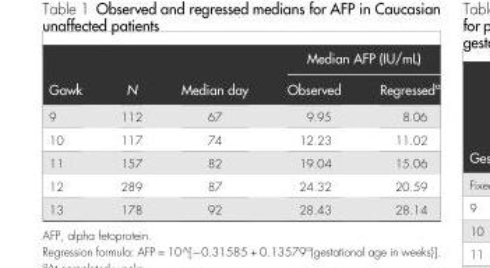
<table><thead><tr><td rowspan="2">Gawk</td><td rowspan="2">N</td><td rowspan="2">Median day</td><td colspan="2">Median AFP (IU/mL)</td></tr><tr><td>Observed</td><td>Regressed<sup>a</sup></td></tr></thead><tbody><tr><td>9</td><td>112</td><td>67</td><td>9.95</td><td>8.06</td></tr><tr><td>10</td><td>117</td><td>74</td><td>12.23</td><td>11.02</td></tr><tr><td>11</td><td>157</td><td>82</td><td>19.04</td><td>15.06</td></tr><tr><td>12</td><td>289</td><td>87</td><td>24.32</td><td>20.59</td></tr><tr><td>13</td><td>178</td><td>92</td><td>28.43</td><td>28.14</td></tr></tbody></table>